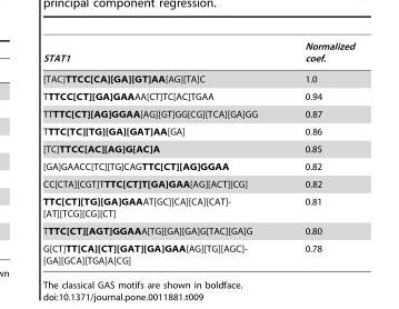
<table><thead><tr><td>STAT1</td><td>Normalized coef.</td></tr></thead><tbody><tr><td>[TAC]TTCC[CA][GA][GT]AA[AG][TA]C</td><td>1.0</td></tr><tr><td>TTTCC[CT][GA]GAAAA[CT]TC[AC]TGAA</td><td>0.94</td></tr><tr><td>TTTTC[CT][AG]GGAA[AG][GT]GG[CG][TCA][GA]GG</td><td>0.87</td></tr><tr><td>TTTC[TC][TG][GA][GAT]AA[GA]</td><td>0.86</td></tr><tr><td>[TC]TTCC[AC][AG]G[AC]A</td><td>0.85</td></tr><tr><td>[GA]GAACC[TC][TG]CAGTTC[CT][AG]GGAA</td><td>0.82</td></tr><tr><td>CC[CTA][CGT]TTTC[CT]T[GA]GAA[AG][ACT][CG]</td><td>0.82</td></tr><tr><td>TTC[CT][TG][GA]GAAAT[GC][CA][CA][CAT]- [AT][TCG][CG][CT]</td><td>0.81</td></tr><tr><td>TTTC[CT][AGT]GGAAA[TG][GA][GA]G[TAC][GA]G</td><td>0.80</td></tr><tr><td>G[CT]TT[CA][CT][GAT][GA]GAA[AG][TG][AGC]- [GA][GCA][TGA]A[CG]</td><td>0.78</td></tr></tbody></table>